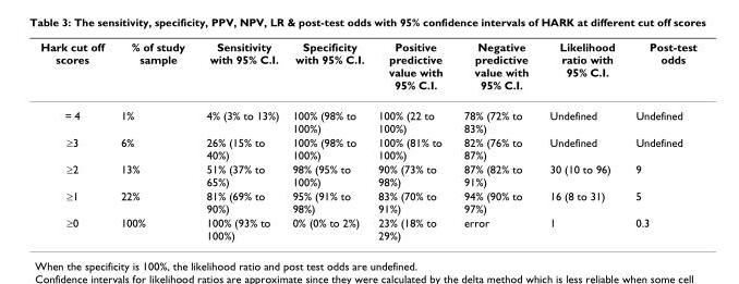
<table><thead><tr><td>Hark cut off scores</td><td>% of study sample</td><td>Sensitivity with 95% C.I.</td><td>Specificity with 95% C.I.</td><td>Positive predictive value with 95% C.I.</td><td>Negative predictive value with 95% C.I.</td><td>Likelihood ratio with 95% C.I.</td><td>Post-test odds</td></tr></thead><tbody><tr><td>= 4</td><td>1%</td><td>4% (3% to 13%)</td><td>100% (98% to 100%)</td><td>100% (22 to 100%)</td><td>78% (72% to 83%)</td><td>Undefined</td><td>Undefined</td></tr><tr><td>≥3</td><td>6%</td><td>26% (15% to 40%)</td><td>100% (98% to 100%)</td><td>100% (81% to 100%)</td><td>82% (76% to 87%)</td><td>Undefined</td><td>Undefined</td></tr><tr><td>≥2</td><td>13%</td><td>51% (37% to 65%)</td><td>98% (95% to 100%)</td><td>90% (73% to 98%)</td><td>87% (82% to 91%)</td><td>30 (10 to 96)</td><td>9</td></tr><tr><td>≥1</td><td>22%</td><td>81% (69% to 90%)</td><td>95% (91% to 98%)</td><td>83% (70% to 91%)</td><td>94% (90% to 97%)</td><td>16 (8 to 31)</td><td>5</td></tr><tr><td>≥0</td><td>100%</td><td>100% (93% to 100%)</td><td>0% (0% to 2%)</td><td>23% (18% to 29%)</td><td>error</td><td>1</td><td>0.3</td></tr></tbody></table>